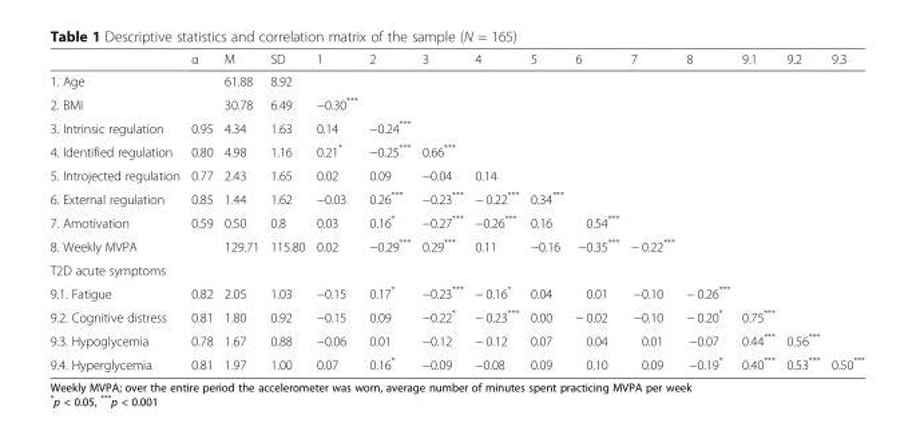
<table><thead><tr><td></td><td>α</td><td>M</td><td>SD</td><td>1</td><td>2</td><td>3</td><td>4</td><td>5</td><td>6</td><td>7</td><td>8</td><td>9.1</td><td>9.2</td><td>9.3</td></tr></thead><tbody><tr><td>1. Age</td><td></td><td>61.88</td><td>8.92</td><td></td><td></td><td></td><td></td><td></td><td></td><td></td><td></td><td></td><td></td><td></td></tr><tr><td>2. BMI</td><td></td><td>30.78</td><td>6.49</td><td>−0.30***</td><td></td><td></td><td></td><td></td><td></td><td></td><td></td><td></td><td></td><td></td></tr><tr><td>3. Intrinsic regulation</td><td>0.95</td><td>4.34</td><td>1.63</td><td>0.14</td><td>−0.24***</td><td></td><td></td><td></td><td></td><td></td><td></td><td></td><td></td><td></td></tr><tr><td>4. Identified regulation</td><td>0.80</td><td>4.98</td><td>1.16</td><td>0.21*</td><td>−0.25***</td><td>0.66***</td><td></td><td></td><td></td><td></td><td></td><td></td><td></td><td></td></tr><tr><td>5. Introjected regulation</td><td>0.77</td><td>2.43</td><td>1.65</td><td>0.02</td><td>0.09</td><td>−0.04</td><td>0.14</td><td></td><td></td><td></td><td></td><td></td><td></td><td></td></tr><tr><td>6. External regulation</td><td>0.85</td><td>1.44</td><td>1.62</td><td>−0.03</td><td>0.26***</td><td>−0.23***</td><td>− 0.22***</td><td>0.34***</td><td></td><td></td><td></td><td></td><td></td><td></td></tr><tr><td>7. Amotivation</td><td>0.59</td><td>0.50</td><td>0.8</td><td>0.03</td><td>0.16*</td><td>−0.27***</td><td>−0.26***</td><td>0.16</td><td>0.54***</td><td></td><td></td><td></td><td></td><td></td></tr><tr><td>8. Weekly MVPA</td><td></td><td>129.71</td><td>115.80</td><td>0.02</td><td>−0.29***</td><td>0.29***</td><td>0.11</td><td>−0.16</td><td>−0.35***</td><td>− 0.22***</td><td></td><td></td><td></td><td></td></tr><tr><td colspan="15">T2D acute symptoms</td></tr><tr><td>9.1. Fatigue</td><td>0.82</td><td>2.05</td><td>1.03</td><td>−0.15</td><td>0.17*</td><td>−0.23***</td><td>− 0.16*</td><td>0.04</td><td>0.01</td><td>−0.10</td><td>− 0.26***</td><td></td><td></td><td></td></tr><tr><td>9.2. Cognitive distress</td><td>0.81</td><td>1.80</td><td>0.92</td><td>−0.15</td><td>0.09</td><td>−0.22*</td><td>− 0.23***</td><td>0.00</td><td>− 0.02</td><td>−0.10</td><td>− 0.20*</td><td>0.75***</td><td></td><td></td></tr><tr><td>9.3. Hypoglycemia</td><td>0.78</td><td>1.67</td><td>0.88</td><td>−0.06</td><td>0.01</td><td>−0.12</td><td>− 0.12</td><td>0.07</td><td>0.04</td><td>0.01</td><td>−0.07</td><td>0.44***</td><td>0.56***</td><td></td></tr><tr><td>9.4. Hyperglycemia</td><td>0.81</td><td>1.97</td><td>1.00</td><td>0.07</td><td>0.16*</td><td>−0.09</td><td>−0.08</td><td>0.09</td><td>0.10</td><td>0.09</td><td>−0.19*</td><td>0.40***</td><td>0.53***</td><td>0.50***</td></tr></tbody></table>